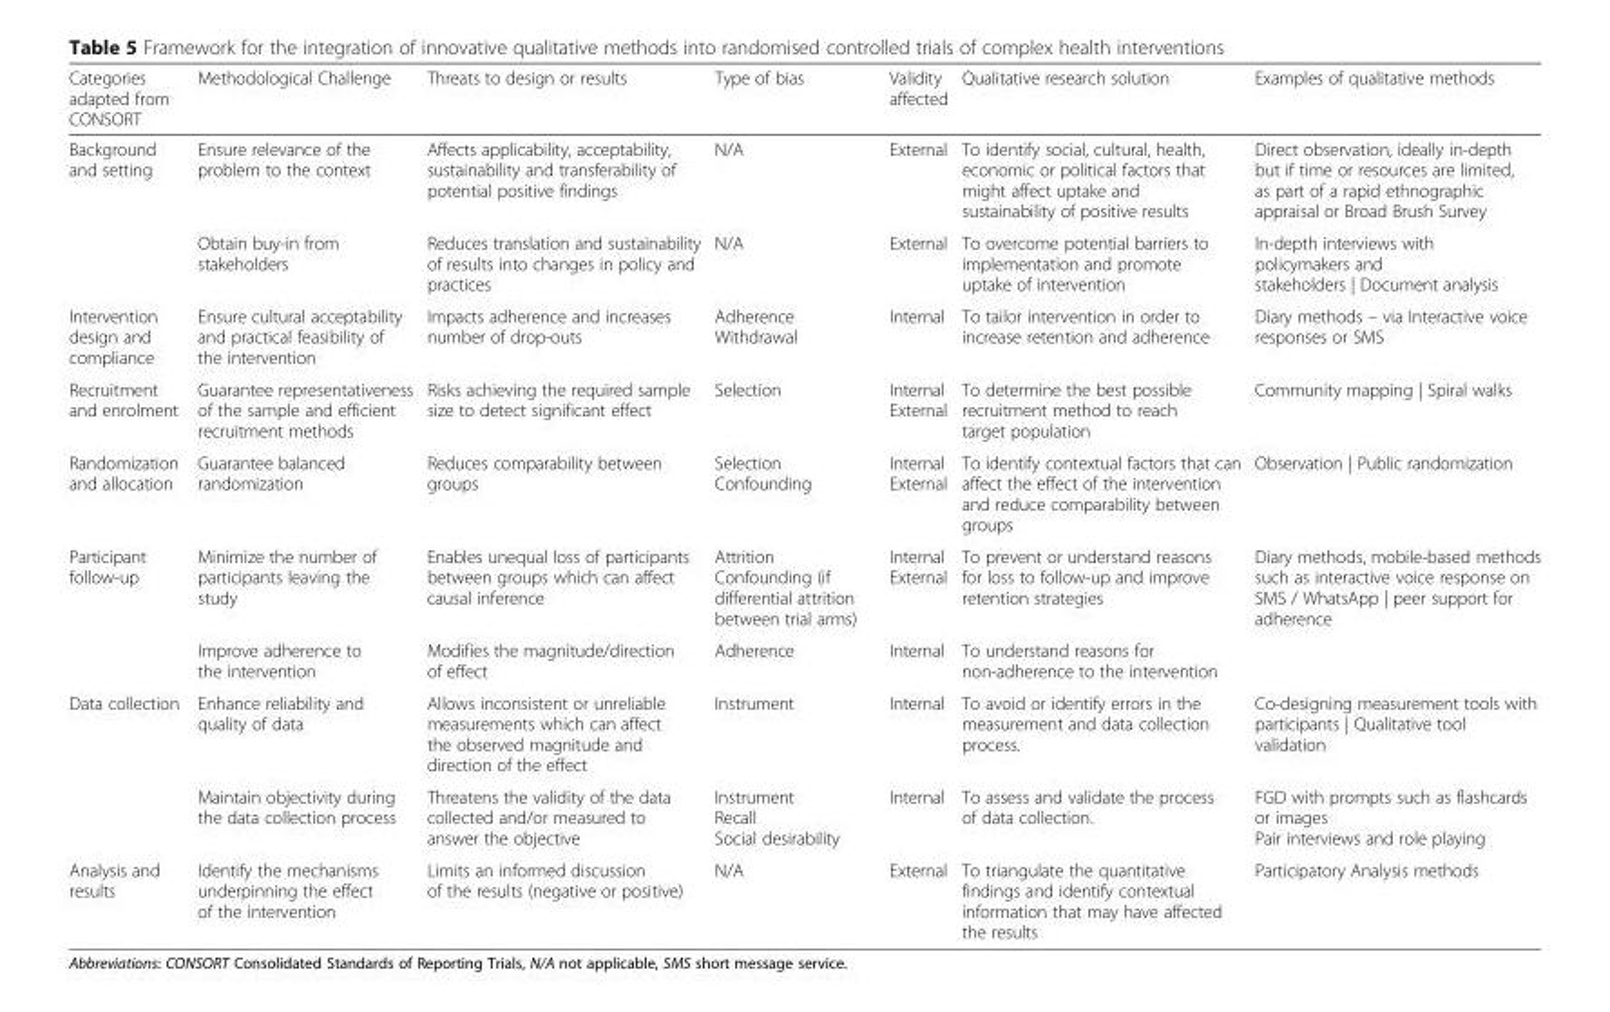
<table><thead><tr><td>Categories adapted from CONSORT</td><td>Methodological Challenge</td><td>Threats to design or results</td><td>Type of bias</td><td>Validity affected</td><td>Qualitative research solution</td><td>Examples of qualitative methods</td></tr></thead><tbody><tr><td rowspan="2">Background and setting</td><td>Ensure relevance of the problem to the context</td><td>Affects applicability, acceptability, sustainability and transferability of potential positive findings</td><td>N/A</td><td>External</td><td>To identify social, cultural, health, economic or political factors that might affect uptake and sustainability of positive results</td><td>Direct observation, ideally in-depth but if time or resources are limited, as part of a rapid ethnographic appraisal or Broad Brush Survey</td></tr><tr><td>Obtain buy-in from stakeholders</td><td>Reduces translation and sustainability of results into changes in policy and practices</td><td>N/A</td><td>External</td><td>To overcome potential barriers to implementation and promote uptake of intervention</td><td>In-depth interviews with policymakers and stakeholders | Document analysis</td></tr><tr><td>Intervention design and compliance</td><td>Ensure cultural acceptability and practical feasibility of the intervention</td><td>Impacts adherence and increases number of drop-outs</td><td>Adherence Withdrawal</td><td>Internal</td><td>To tailor intervention in order to increase retention and adherence</td><td>Diary methods – via Interactive voice responses or SMS</td></tr><tr><td>Recruitment and enrolment</td><td>Guarantee representativeness of the sample and efficient recruitment methods</td><td>Risks achieving the required sample size to detect significant effect</td><td>Selection</td><td>Internal External</td><td>To determine the best possible recruitment method to reach target population</td><td>Community mapping | Spiral walks</td></tr><tr><td>Randomization and allocation</td><td>Guarantee balanced randomization</td><td>Reduces comparability between groups</td><td>Selection Confounding</td><td>Internal External</td><td>To identify contextual factors that can affect the effect of the intervention and reduce comparability between groups</td><td>Observation | Public randomization</td></tr><tr><td rowspan="2">Participant follow-up</td><td>Minimize the number of participants leaving the study</td><td>Enables unequal loss of participants between groups which can affect causal inference</td><td>Attrition Confounding (if differential attrition between trial arms)</td><td>Internal External</td><td>To prevent or understand reasons for loss to follow-up and improve retention strategies</td><td rowspan="2">Diary methods, mobile-based methods such as interactive voice response on SMS / WhatsApp | peer support for adherence</td></tr><tr><td>Improve adherence to the intervention</td><td>Modifies the magnitude/direction of effect</td><td>Adherence</td><td>Internal</td><td>To understand reasons for non-adherence to the intervention</td></tr><tr><td rowspan="2">Data collection</td><td>Enhance reliability and quality of data</td><td>Allows inconsistent or unreliable measurements which can affect the observed magnitude and direction of the effect</td><td>Instrument</td><td>Internal</td><td>To avoid or identify errors in the measurement and data collection process.</td><td>Co-designing measurement tools with participants | Qualitative tool validation</td></tr><tr><td>Maintain objectivity during the data collection process</td><td>Threatens the validity of the data collected and/or measured to answer the objective</td><td>Instrument Recall Social desirability</td><td>Internal</td><td>To assess and validate the process of data collection.</td><td>FGD with prompts such as flashcards or images Pair interviews and role playing</td></tr><tr><td>Analysis and results</td><td>Identify the mechanisms underpinning the effect of the intervention</td><td>Limits an informed discussion of the results (negative or positive)</td><td>N/A</td><td>External</td><td>To triangulate the quantitative findings and identify contextual information that may have affected the results</td><td>Participatory Analysis methods</td></tr></tbody></table>